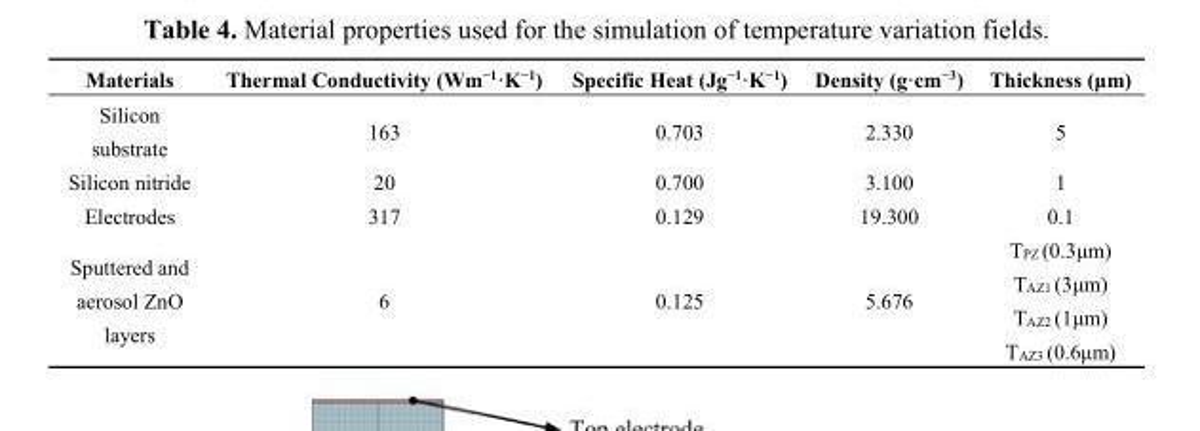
<table><thead><tr><td>Materials</td><td>Thermal Conductivity (Wm<sup>−1</sup>·K<sup>−1</sup>)</td><td>Specific Heat (Jg<sup>−1</sup>·K<sup>−1</sup>)</td><td>Density (g·cm<sup>−3</sup>)</td><td>Thickness (μm)</td></tr></thead><tbody><tr><td>Silicon substrate</td><td>163</td><td>0.703</td><td>2.330</td><td>5</td></tr><tr><td>Silicon nitride</td><td>20</td><td>0.700</td><td>3.100</td><td>1</td></tr><tr><td>Electrodes</td><td>317</td><td>0.129</td><td>19.300</td><td>0.1</td></tr><tr><td rowspan="4">Sputtered and aerosol ZnO layers</td><td rowspan="4">6</td><td rowspan="4">0.125</td><td rowspan="4">5.676</td><td>T<sub>PZ</sub> (0.3μm)</td></tr><tr><td>T<sub>AZ1</sub> (3μm)</td></tr><tr><td>T<sub>AZ2</sub> (1μm)</td></tr><tr><td>T<sub>AZ3</sub> (0.6μm)</td></tr></tbody></table>